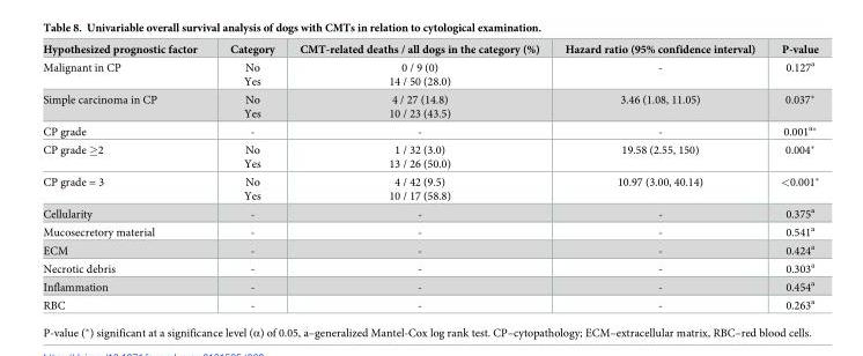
<table><thead><tr><td>Hypothesized prognostic factor</td><td>Category</td><td>CMT-related deaths / all dogs in the category (%)</td><td>Hazard ratio (95% confidence interval)</td><td>P-value</td></tr></thead><tbody><tr><td>Malignant in CP</td><td>No Yes</td><td>0 / 9 (0) 14 / 50 (28.0)</td><td>-</td><td>0.127<sup>a</sup></td></tr><tr><td>Simple carcinoma in CP</td><td>No Yes</td><td>4 / 27 (14.8) 10 / 23 (43.5)</td><td>3.46 (1.08, 11.05)</td><td>0.037*</td></tr><tr><td>CP grade</td><td>-</td><td>-</td><td>-</td><td>0.001<sup>a</sup>*</td></tr><tr><td>CP grade ≥2</td><td>No Yes</td><td>1 / 32 (3.0) 13 / 26 (50.0)</td><td>19.58 (2.55, 150)</td><td>0.004*</td></tr><tr><td>CP grade = 3</td><td>No Yes</td><td>4 / 42 (9.5) 10 / 17 (58.8)</td><td>10.97 (3.00, 40.14)</td><td>&lt;0.001*</td></tr><tr><td>Cellularity</td><td>-</td><td>-</td><td>-</td><td>0.375<sup>a</sup></td></tr><tr><td>Mucosecretory material</td><td>-</td><td>-</td><td>-</td><td>0.541<sup>a</sup></td></tr><tr><td>ECM</td><td>-</td><td>-</td><td>-</td><td>0.424<sup>a</sup></td></tr><tr><td>Necrotic debris</td><td>-</td><td>-</td><td>-</td><td>0.303<sup>a</sup></td></tr><tr><td>Inflammation</td><td>-</td><td>-</td><td>-</td><td>0.454<sup>a</sup></td></tr><tr><td>RBC</td><td>-</td><td>-</td><td>-</td><td>0.263<sup>a</sup></td></tr></tbody></table>